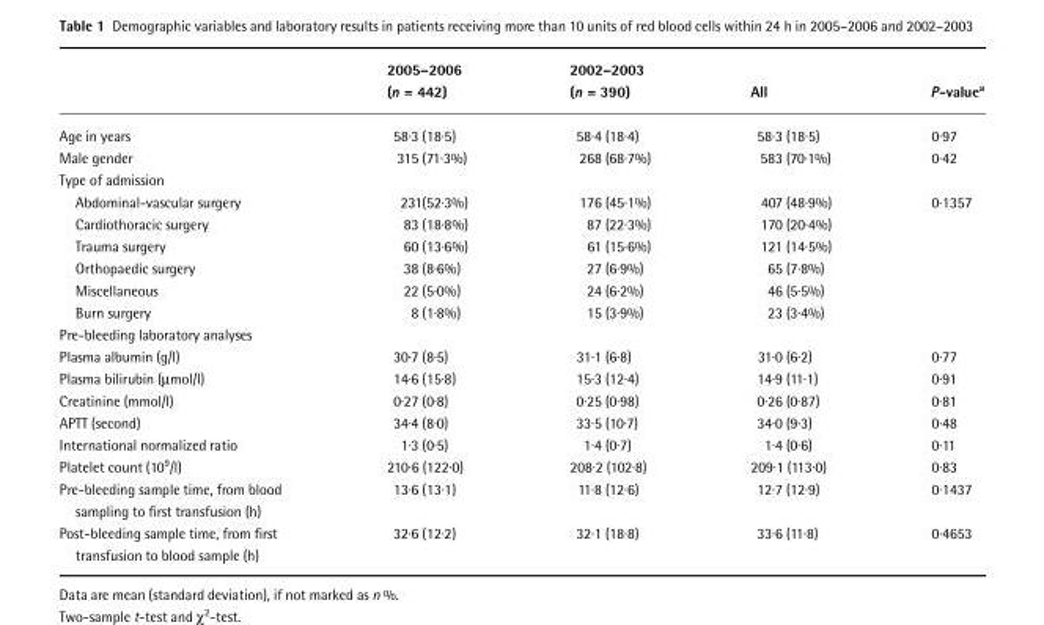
<table><thead><tr><td></td><td>2005–2006 (n = 442)</td><td>2002–2003 (n = 390)</td><td>All</td><td>P-value<sup>a</sup></td></tr></thead><tbody><tr><td>Age in years</td><td>58·3 (18·5)</td><td>58·4 (18·4)</td><td>58·3 (18·5)</td><td>0·97</td></tr><tr><td>Male gender</td><td>315 (71·3%)</td><td>268 (68·7%)</td><td>583 (70·1%)</td><td>0·42</td></tr><tr><td colspan="5">Type of admission</td></tr><tr><td>Abdominal-vascular surgery</td><td>231(52·3%)</td><td>176 (45·1%)</td><td>407 (48·9%)</td><td>0·1357</td></tr><tr><td>Cardiothoracic surgery</td><td>83 (18·8%)</td><td>87 (22·3%)</td><td>170 (20·4%)</td><td></td></tr><tr><td>Trauma surgery</td><td>60 (13·6%)</td><td>61 (15·6%)</td><td>121 (14·5%)</td><td></td></tr><tr><td>Orthopaedic surgery</td><td>38 (8·6%)</td><td>27 (6·9%)</td><td>65 (7·8%)</td><td></td></tr><tr><td>Miscellaneous</td><td>22 (5·0%)</td><td>24 (6·2%)</td><td>46 (5·5%)</td><td></td></tr><tr><td>Burn surgery</td><td>8 (1·8%)</td><td>15 (3·9%)</td><td>23 (3·4%)</td><td></td></tr><tr><td colspan="5">Pre-bleeding laboratory analyses</td></tr><tr><td>Plasma albumin (g/l)</td><td>30·7 (8·5)</td><td>31·1 (6·8)</td><td>31·0 (6·2)</td><td>0·77</td></tr><tr><td>Plasma bilirubin (μmol/l)</td><td>14·6 (15·8)</td><td>15·3 (12·4)</td><td>14·9 (11·1)</td><td>0·91</td></tr><tr><td>Creatinine (mmol/l)</td><td>0·27 (0·8)</td><td>0·25 (0·98)</td><td>0·26 (0·87)</td><td>0·81</td></tr><tr><td>APTT (second)</td><td>34·4 (8·0)</td><td>33·5 (10·7)</td><td>34·0 (9·3)</td><td>0·48</td></tr><tr><td>International normalized ratio</td><td>1·3 (0·5)</td><td>1·4 (0·7)</td><td>1·4 (0·6)</td><td>0·11</td></tr><tr><td>Platelet count (10<sup>9</sup>/l)</td><td>210·6 (122·0)</td><td>208·2 (102·8)</td><td>209·1 (113·0)</td><td>0·83</td></tr><tr><td>Pre-bleeding sample time, from blood sampling to first transfusion (h)</td><td>13·6 (13·1)</td><td>11·8 (12·6)</td><td>12·7 (12·9)</td><td>0·1437</td></tr><tr><td>Post-bleeding sample time, from first transfusion to blood sample (h)</td><td>32·6 (12·2)</td><td>32·1 (18·8)</td><td>33·6 (11·8)</td><td>0·4653</td></tr></tbody></table>